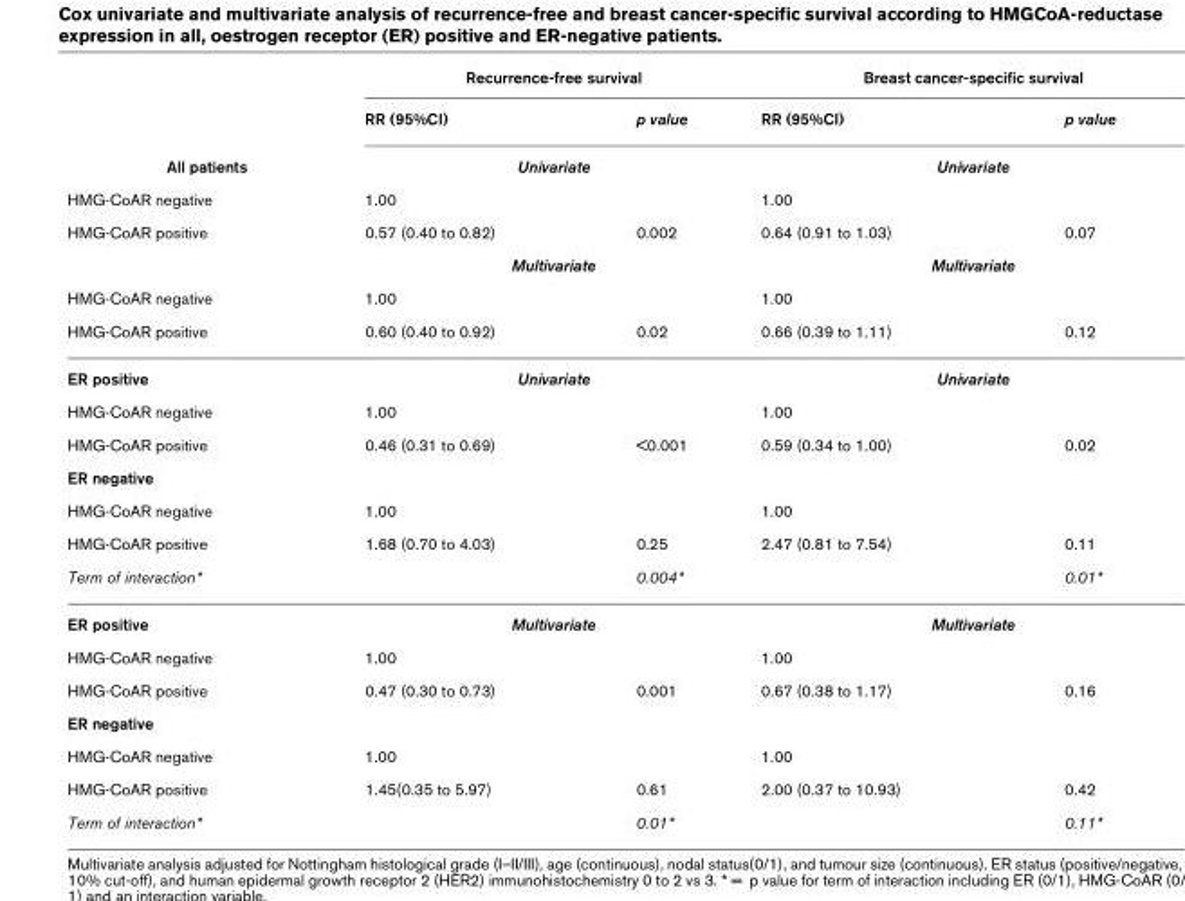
<table><thead><tr><td rowspan="8">All patients HMG-CoAR negative HMG-CoAR positive HMG-CoAR negative HMG-CoAR positive</td><td colspan="2">Recurrence-free survival</td><td colspan="2">Breast cancer-specific survival</td></tr><tr><td>RR (95%CI)</td><td>p value</td><td>RR (95%CI)</td><td>p value</td></tr><tr><td colspan="2">Univariate</td><td colspan="2">Univariate</td></tr><tr><td rowspan="2">1.00 0.57 (0.40 to 0.82)</td><td rowspan="2">0.002</td><td rowspan="2">1.00 0.64 (0.91 to 1.03)</td><td rowspan="2">0.07</td></tr><tr></tr><tr><td colspan="2">Multivariate</td><td colspan="2">Multivariate</td></tr><tr><td rowspan="2">1.00 0.60 (0.40 to 0.92)</td><td rowspan="2">0.02</td><td rowspan="2">1.00 0.66 (0.39 to 1.11)</td><td rowspan="2">0.12</td></tr><tr></tr></thead><tbody><tr><td>ER positive</td><td colspan="2">Univariate</td><td colspan="2">Univariate</td></tr><tr><td>HMG-CoAR negative</td><td>1.00</td><td></td><td>1.00</td><td></td></tr><tr><td>HMG-CoAR positive</td><td>0.46 (0.31 to 0.69)</td><td>&lt;0.001</td><td>0.59 (0.34 to 1.00)</td><td>0.02</td></tr><tr><td colspan="5">ER negative</td></tr><tr><td>HMG-CoAR negative</td><td>1.00</td><td></td><td>1.00</td><td></td></tr><tr><td>HMG-CoAR positive</td><td>1.68 (0.70 to 4.03)</td><td>0.25</td><td>2.47 (0.81 to 7.54)</td><td>0.11</td></tr><tr><td>Term of interaction*</td><td></td><td>0.004*</td><td></td><td>0.01*</td></tr><tr><td>ER positive</td><td colspan="2">Multivariate</td><td colspan="2">Multivariate</td></tr><tr><td>HMG-CoAR negative</td><td>1.00</td><td></td><td>1.00</td><td></td></tr><tr><td>HMG-CoAR positive</td><td>0.47 (0.30 to 0.73)</td><td>0.001</td><td>0.67 (0.38 to 1.17)</td><td>0.16</td></tr><tr><td colspan="5">ER negative</td></tr><tr><td>HMG-CoAR negative</td><td>1.00</td><td></td><td>1.00</td><td></td></tr><tr><td>HMG-CoAR positive</td><td>1.45(0.35 to 5.97)</td><td>0.61</td><td>2.00 (0.37 to 10.93)</td><td>0.42</td></tr><tr><td>Term of interaction*</td><td></td><td>0.01*</td><td></td><td>0.11*</td></tr></tbody></table>